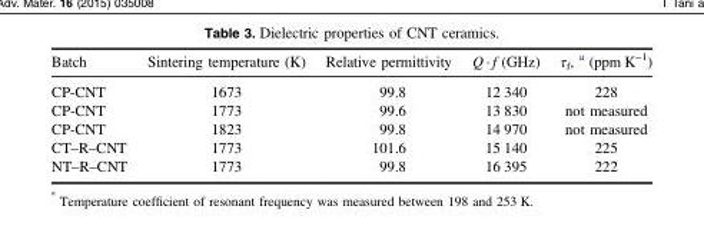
<table><thead><tr><td>Batch</td><td>Sintering temperature (K)</td><td>Relative permittivity</td><td>Q · f (GHz)</td><td>τ<sub>f</sub>, <sup>a</sup> (ppm K<sup>−1</sup>)</td></tr></thead><tbody><tr><td>CP-CNT</td><td>1673</td><td>99.8</td><td>12 340</td><td>228</td></tr><tr><td>CP-CNT</td><td>1773</td><td>99.6</td><td>13 830</td><td>not measured</td></tr><tr><td>CP-CNT</td><td>1823</td><td>99.8</td><td>14 970</td><td>not measured</td></tr><tr><td>CT–R–CNT</td><td>1773</td><td>101.6</td><td>15 140</td><td>225</td></tr><tr><td>NT–R–CNT</td><td>1773</td><td>99.8</td><td>16 395</td><td>222</td></tr></tbody></table>